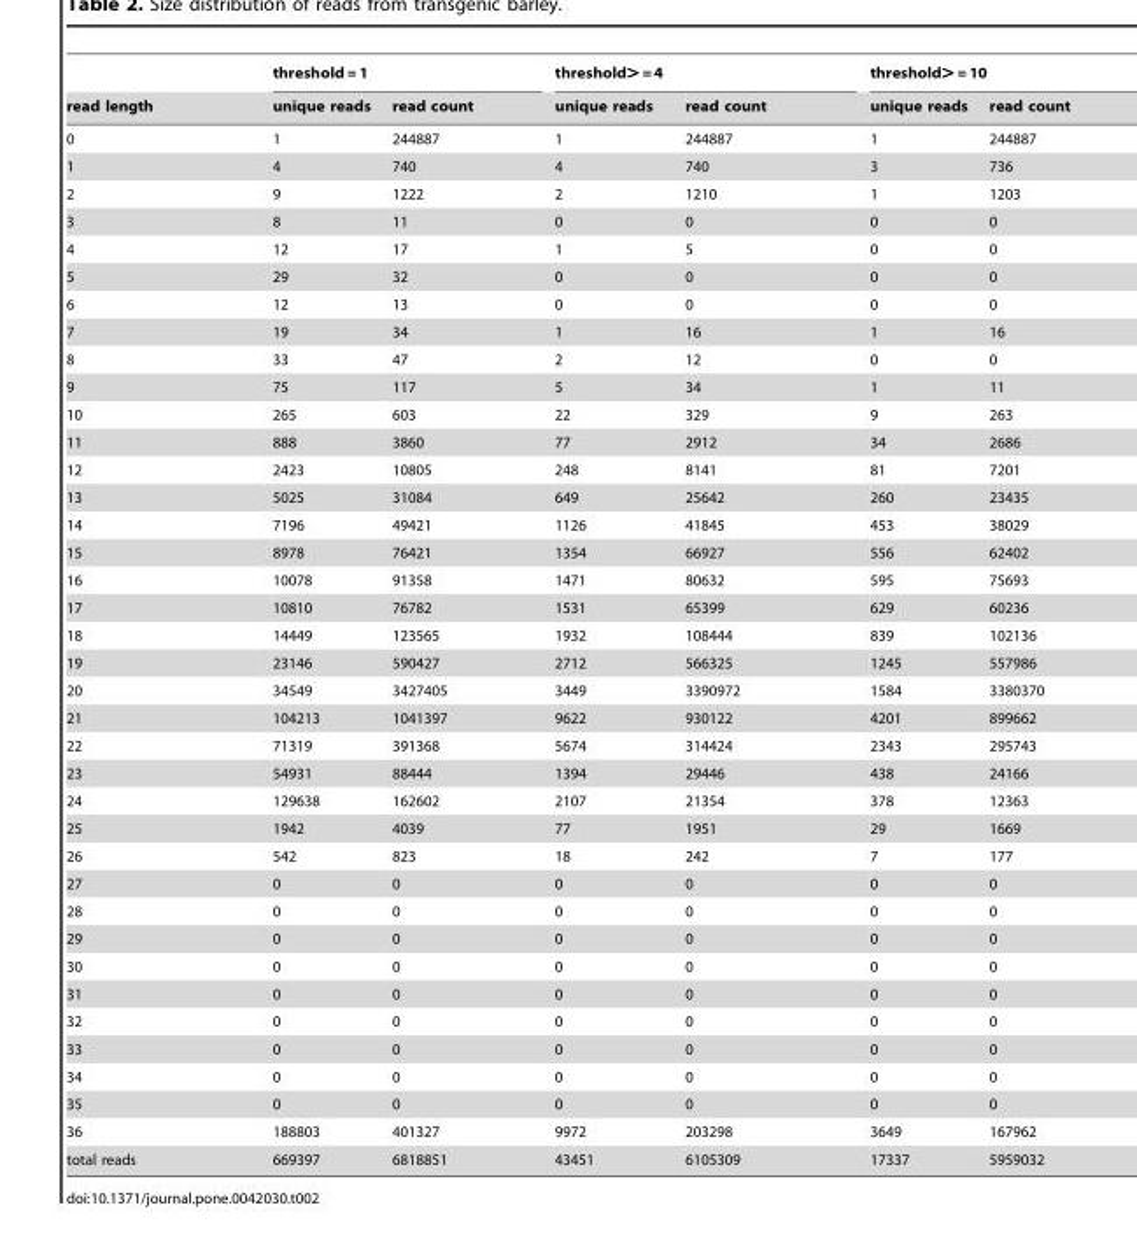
<table><thead><tr><td rowspan="2">read length</td><td colspan="2">threshold = 1</td><td colspan="2">threshold&gt; = 4</td><td colspan="2">threshold&gt; = 10</td></tr><tr><td>unique reads</td><td>read count</td><td>unique reads</td><td>read count</td><td>unique reads</td><td>read count</td></tr></thead><tbody><tr><td>0</td><td>1</td><td>244887</td><td>1</td><td>244887</td><td>1</td><td>244887</td></tr><tr><td>1</td><td>4</td><td>740</td><td>4</td><td>740</td><td>3</td><td>736</td></tr><tr><td>2</td><td>9</td><td>1222</td><td>2</td><td>1210</td><td>1</td><td>1203</td></tr><tr><td>3</td><td>8</td><td>11</td><td>0</td><td>0</td><td>0</td><td>0</td></tr><tr><td>4</td><td>12</td><td>17</td><td>1</td><td>5</td><td>0</td><td>0</td></tr><tr><td>5</td><td>29</td><td>32</td><td>0</td><td>0</td><td>0</td><td>0</td></tr><tr><td>6</td><td>12</td><td>13</td><td>0</td><td>0</td><td>0</td><td>0</td></tr><tr><td>7</td><td>19</td><td>34</td><td>1</td><td>16</td><td>1</td><td>16</td></tr><tr><td>8</td><td>33</td><td>47</td><td>2</td><td>12</td><td>0</td><td>0</td></tr><tr><td>9</td><td>75</td><td>117</td><td>5</td><td>34</td><td>1</td><td>11</td></tr><tr><td>10</td><td>265</td><td>603</td><td>22</td><td>329</td><td>9</td><td>263</td></tr><tr><td>11</td><td>888</td><td>3860</td><td>77</td><td>2912</td><td>34</td><td>2686</td></tr><tr><td>12</td><td>2423</td><td>10805</td><td>248</td><td>8141</td><td>81</td><td>7201</td></tr><tr><td>13</td><td>5025</td><td>31084</td><td>649</td><td>25642</td><td>260</td><td>23435</td></tr><tr><td>14</td><td>7196</td><td>49421</td><td>1126</td><td>41845</td><td>453</td><td>38029</td></tr><tr><td>15</td><td>8978</td><td>76421</td><td>1354</td><td>66927</td><td>556</td><td>62402</td></tr><tr><td>16</td><td>10078</td><td>91358</td><td>1471</td><td>80632</td><td>595</td><td>75693</td></tr><tr><td>17</td><td>10810</td><td>76782</td><td>1531</td><td>65399</td><td>629</td><td>60236</td></tr><tr><td>18</td><td>14449</td><td>123565</td><td>1932</td><td>108444</td><td>839</td><td>102136</td></tr><tr><td>19</td><td>23146</td><td>590427</td><td>2712</td><td>566325</td><td>1245</td><td>557986</td></tr><tr><td>20</td><td>34549</td><td>3427405</td><td>3449</td><td>3390972</td><td>1584</td><td>3380370</td></tr><tr><td>21</td><td>104213</td><td>1041397</td><td>9622</td><td>930122</td><td>4201</td><td>899662</td></tr><tr><td>22</td><td>71319</td><td>391368</td><td>5674</td><td>314424</td><td>2343</td><td>295743</td></tr><tr><td>23</td><td>54931</td><td>88444</td><td>1394</td><td>29446</td><td>438</td><td>24166</td></tr><tr><td>24</td><td>129638</td><td>162602</td><td>2107</td><td>21354</td><td>378</td><td>12363</td></tr><tr><td>25</td><td>1942</td><td>4039</td><td>77</td><td>1951</td><td>29</td><td>1669</td></tr><tr><td>26</td><td>542</td><td>823</td><td>18</td><td>242</td><td>7</td><td>177</td></tr><tr><td>27</td><td>0</td><td>0</td><td>0</td><td>0</td><td>0</td><td>0</td></tr><tr><td>28</td><td>0</td><td>0</td><td>0</td><td>0</td><td>0</td><td>0</td></tr><tr><td>29</td><td>0</td><td>0</td><td>0</td><td>0</td><td>0</td><td>0</td></tr><tr><td>30</td><td>0</td><td>0</td><td>0</td><td>0</td><td>0</td><td>0</td></tr><tr><td>31</td><td>0</td><td>0</td><td>0</td><td>0</td><td>0</td><td>0</td></tr><tr><td>32</td><td>0</td><td>0</td><td>0</td><td>0</td><td>0</td><td>0</td></tr><tr><td>33</td><td>0</td><td>0</td><td>0</td><td>0</td><td>0</td><td>0</td></tr><tr><td>34</td><td>0</td><td>0</td><td>0</td><td>0</td><td>0</td><td>0</td></tr><tr><td>35</td><td>0</td><td>0</td><td>0</td><td>0</td><td>0</td><td>0</td></tr><tr><td>36</td><td>188803</td><td>401327</td><td>9972</td><td>203298</td><td>3649</td><td>167962</td></tr><tr><td>total reads</td><td>669397</td><td>6818851</td><td>43451</td><td>6105309</td><td>17337</td><td>5959032</td></tr></tbody></table>